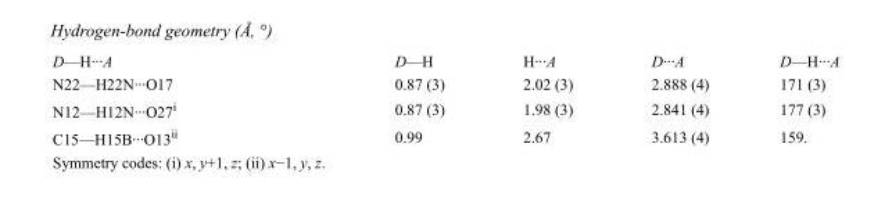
<table><tbody><tr><td>D—H···A</td><td>D—H</td><td>H···A</td><td>D···A</td><td>D—H···A</td></tr><tr><td>N22—H22N···O17</td><td>0.87 (3)</td><td>2.02 (3)</td><td>2.888 (4)</td><td>171 (3)</td></tr><tr><td>N12—H12N···O27<sup>i</sup></td><td>0.87 (3)</td><td>1.98 (3)</td><td>2.841 (4)</td><td>177 (3)</td></tr><tr><td>C15—H15B···O13<sup>ii</sup></td><td>0.99</td><td>2.67</td><td>3.613 (4)</td><td>159.</td></tr></tbody></table>